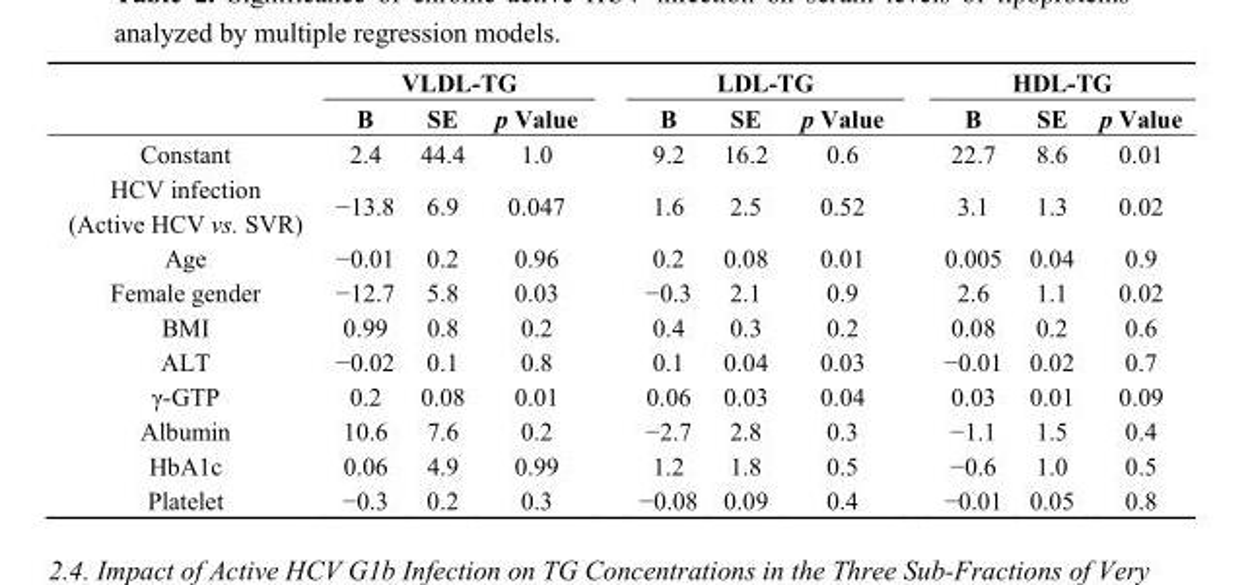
<table><thead><tr><td rowspan="2"></td><td colspan="3">VLDL-TG</td><td colspan="3">LDL-TG</td><td colspan="3">HDL-TG</td></tr><tr><td>B</td><td>SE</td><td>p Value</td><td>B</td><td>SE</td><td>p Value</td><td>B</td><td>SE</td><td>p Value</td></tr></thead><tbody><tr><td>Constant</td><td>2.4</td><td>44.4</td><td>1.0</td><td>9.2</td><td>16.2</td><td>0.6</td><td>22.7</td><td>8.6</td><td>0.01</td></tr><tr><td>HCV infection (Active HCV vs. SVR)</td><td>−13.8</td><td>6.9</td><td>0.047</td><td>1.6</td><td>2.5</td><td>0.52</td><td>3.1</td><td>1.3</td><td>0.02</td></tr><tr><td>Age</td><td>−0.01</td><td>0.2</td><td>0.96</td><td>0.2</td><td>0.08</td><td>0.01</td><td>0.005</td><td>0.04</td><td>0.9</td></tr><tr><td>Female gender</td><td>−12.7</td><td>5.8</td><td>0.03</td><td>−0.3</td><td>2.1</td><td>0.9</td><td>2.6</td><td>1.1</td><td>0.02</td></tr><tr><td>BMI</td><td>0.99</td><td>0.8</td><td>0.2</td><td>0.4</td><td>0.3</td><td>0.2</td><td>0.08</td><td>0.2</td><td>0.6</td></tr><tr><td>ALT</td><td>−0.02</td><td>0.1</td><td>0.8</td><td>0.1</td><td>0.04</td><td>0.03</td><td>−0.01</td><td>0.02</td><td>0.7</td></tr><tr><td>γ-GTP</td><td>0.2</td><td>0.08</td><td>0.01</td><td>0.06</td><td>0.03</td><td>0.04</td><td>0.03</td><td>0.01</td><td>0.09</td></tr><tr><td>Albumin</td><td>10.6</td><td>7.6</td><td>0.2</td><td>−2.7</td><td>2.8</td><td>0.3</td><td>−1.1</td><td>1.5</td><td>0.4</td></tr><tr><td>HbA1c</td><td>0.06</td><td>4.9</td><td>0.99</td><td>1.2</td><td>1.8</td><td>0.5</td><td>−0.6</td><td>1.0</td><td>0.5</td></tr><tr><td>Platelet</td><td>−0.3</td><td>0.2</td><td>0.3</td><td>−0.08</td><td>0.09</td><td>0.4</td><td>−0.01</td><td>0.05</td><td>0.8</td></tr></tbody></table>